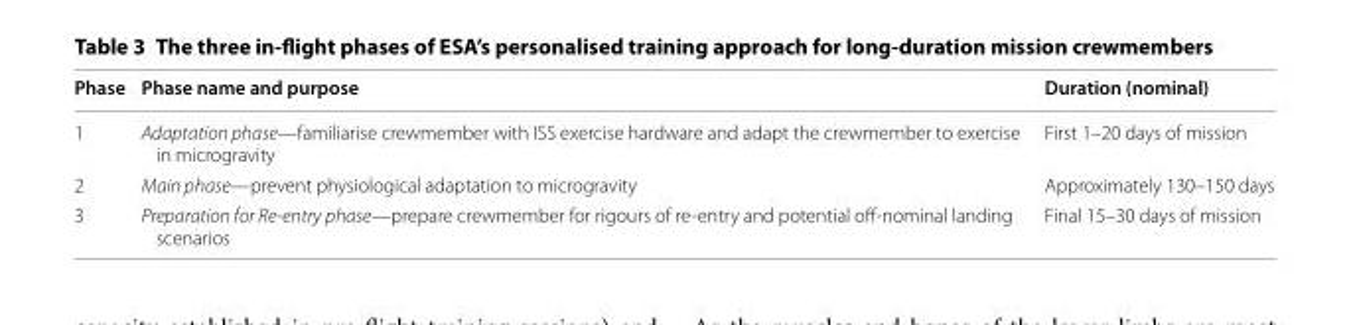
<table><thead><tr><td>Phase</td><td>Phase name and purpose</td><td>Duration (nominal)</td></tr></thead><tbody><tr><td>1</td><td>Adaptation phase—familiarise crewmember with ISS exercise hardware and adapt the crewmember to exercise in microgravity</td><td>First 1–20 days of mission</td></tr><tr><td>2</td><td>Main phase—prevent physiological adaptation to microgravity</td><td>Approximately 130–150 days</td></tr><tr><td>3</td><td>Preparation for Re‑entry phase—prepare crewmember for rigours of re‑entry and potential off‑nominal landing scenarios</td><td>Final 15–30 days of mission</td></tr></tbody></table>